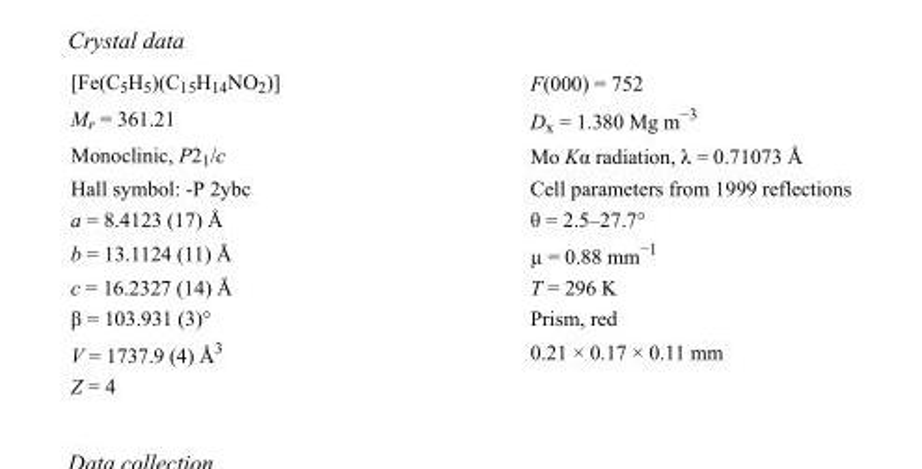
<table><tbody><tr><td>[Fe(C<sub>5</sub>H<sub>5</sub>)(C<sub>15</sub>H<sub>14</sub>NO<sub>2</sub>)]</td><td>F(000) = 752</td></tr><tr><td>M<sub>r</sub> = 361.21</td><td>D<sub>x</sub> = 1.380 Mg m<sup>−3</sup></td></tr><tr><td>Monoclinic, P2<sub>1</sub>/c</td><td>Mo Kα radiation, λ = 0.71073 Å</td></tr><tr><td>Hall symbol: -P 2ybc</td><td>Cell parameters from 1999 reflections</td></tr><tr><td>a = 8.4123 (17) Å</td><td>θ = 2.5–27.7°</td></tr><tr><td>b = 13.1124 (11) Å</td><td>µ = 0.88 mm<sup>−1</sup></td></tr><tr><td>c = 16.2327 (14) Å</td><td>T = 296 K</td></tr><tr><td>β = 103.931 (3)°</td><td>Prism, red</td></tr><tr><td>V = 1737.9 (4) Å<sup>3</sup></td><td>0.21 × 0.17 × 0.11 mm</td></tr><tr><td>Z = 4</td><td></td></tr></tbody></table>